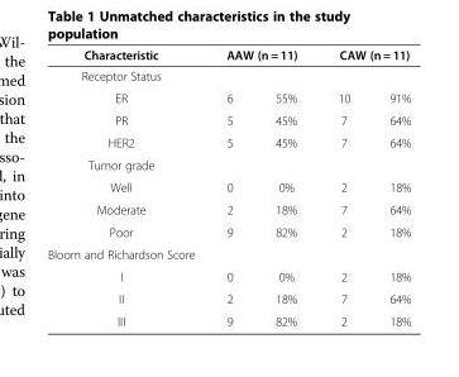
<table><thead><tr><td rowspan="2">Characteristic Receptor Status</td><td colspan="2">AAW (n = 11)</td><td colspan="2">CAW (n = 11)</td></tr><tr><td></td><td></td><td></td><td></td></tr></thead><tbody><tr><td>ER</td><td>6</td><td>55%</td><td>10</td><td>91%</td></tr><tr><td>PR</td><td>5</td><td>45%</td><td>7</td><td>64%</td></tr><tr><td>HER2</td><td>5</td><td>45%</td><td>7</td><td>64%</td></tr><tr><td colspan="5">Tumor grade</td></tr><tr><td>Well</td><td>0</td><td>0%</td><td>2</td><td>18%</td></tr><tr><td>Moderate</td><td>2</td><td>18%</td><td>7</td><td>64%</td></tr><tr><td>Poor</td><td>9</td><td>82%</td><td>2</td><td>18%</td></tr><tr><td colspan="5">Bloom and Richardson Score</td></tr><tr><td>I</td><td>0</td><td>0%</td><td>2</td><td>18%</td></tr><tr><td>II</td><td>2</td><td>18%</td><td>7</td><td>64%</td></tr><tr><td>III</td><td>9</td><td>82%</td><td>2</td><td>18%</td></tr></tbody></table>